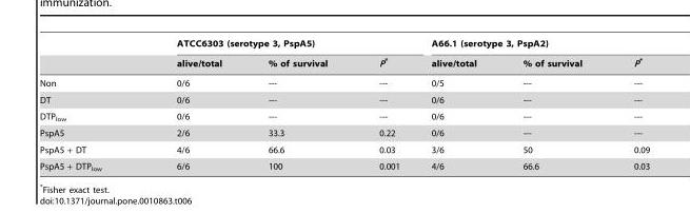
<table><thead><tr><td rowspan="2"></td><td colspan="3">ATCC6303 (serotype 3, PspA5)</td><td colspan="3">A66.1 (serotype 3, PspA2)</td></tr><tr><td>alive/total</td><td>% of survival</td><td>P*</td><td>alive/total</td><td>% of survival</td><td>P*</td></tr></thead><tbody><tr><td>Non</td><td>0/6</td><td>---</td><td>---</td><td>0/5</td><td>---</td><td>---</td></tr><tr><td>DT</td><td>0/6</td><td>---</td><td>---</td><td>0/6</td><td>---</td><td>---</td></tr><tr><td>DTP<sub>low</sub></td><td>0/6</td><td>---</td><td>---</td><td>0/6</td><td>---</td><td>---</td></tr><tr><td>PspA5</td><td>2/6</td><td>33.3</td><td>0.22</td><td>0/6</td><td>---</td><td>---</td></tr><tr><td>PspA5 + DT</td><td>4/6</td><td>66.6</td><td>0.03</td><td>3/6</td><td>50</td><td>0.09</td></tr><tr><td>PspA5 + DTP<sub>low</sub></td><td>6/6</td><td>100</td><td>0.001</td><td>4/6</td><td>66.6</td><td>0.03</td></tr></tbody></table>